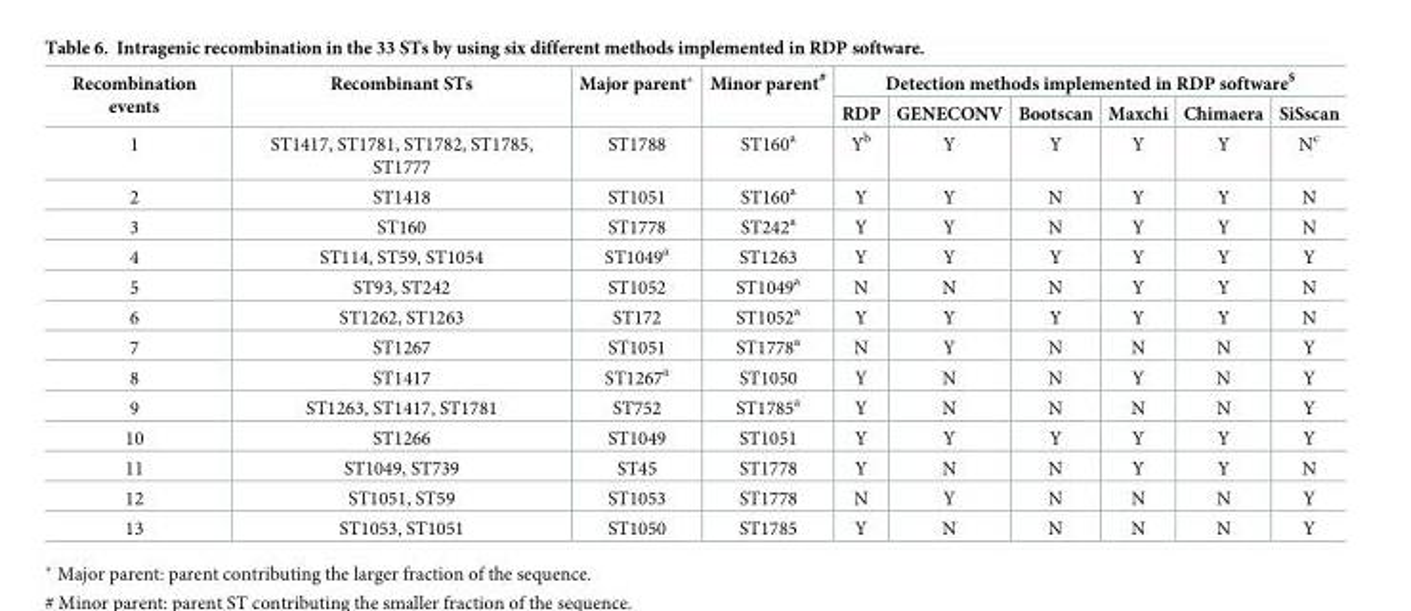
<table><thead><tr><td rowspan="2">Recombination events</td><td rowspan="2">Recombinant STs</td><td rowspan="2">Major parent*</td><td rowspan="2">Minor parent<sup>#</sup></td><td colspan="6">Detection methods implemented in RDP software<sup>$</sup></td></tr><tr><td>RDP</td><td>GENECONV</td><td>Bootscan</td><td>Maxchi</td><td>Chimaera</td><td>SiSscan</td></tr></thead><tbody><tr><td>1</td><td>ST1417, ST1781, ST1782, ST1785, ST1777</td><td>ST1788</td><td>ST160<sup>a</sup></td><td>Y<sup>b</sup></td><td>Y</td><td>Y</td><td>Y</td><td>Y</td><td>N<sup>c</sup></td></tr><tr><td>2</td><td>ST1418</td><td>ST1051</td><td>ST160<sup>a</sup></td><td>Y</td><td>Y</td><td>N</td><td>Y</td><td>Y</td><td>N</td></tr><tr><td>3</td><td>ST160</td><td>ST1778</td><td>ST242<sup>a</sup></td><td>Y</td><td>Y</td><td>N</td><td>Y</td><td>Y</td><td>N</td></tr><tr><td>4</td><td>ST114, ST59, ST1054</td><td>ST1049<sup>a</sup></td><td>ST1263</td><td>Y</td><td>Y</td><td>Y</td><td>Y</td><td>Y</td><td>Y</td></tr><tr><td>5</td><td>ST93, ST242</td><td>ST1052</td><td>ST1049<sup>a</sup></td><td>N</td><td>N</td><td>N</td><td>Y</td><td>Y</td><td>N</td></tr><tr><td>6</td><td>ST1262, ST1263</td><td>ST172</td><td>ST1052<sup>a</sup></td><td>Y</td><td>Y</td><td>Y</td><td>Y</td><td>Y</td><td>N</td></tr><tr><td>7</td><td>ST1267</td><td>ST1051</td><td>ST1778<sup>a</sup></td><td>N</td><td>Y</td><td>N</td><td>N</td><td>N</td><td>Y</td></tr><tr><td>8</td><td>ST1417</td><td>ST1267<sup>a</sup></td><td>ST1050</td><td>Y</td><td>N</td><td>N</td><td>Y</td><td>N</td><td>Y</td></tr><tr><td>9</td><td>ST1263, ST1417, ST1781</td><td>ST752</td><td>ST1785<sup>a</sup></td><td>Y</td><td>N</td><td>N</td><td>N</td><td>N</td><td>Y</td></tr><tr><td>10</td><td>ST1266</td><td>ST1049</td><td>ST1051</td><td>Y</td><td>Y</td><td>Y</td><td>Y</td><td>Y</td><td>Y</td></tr><tr><td>11</td><td>ST1049, ST739</td><td>ST45</td><td>ST1778</td><td>Y</td><td>N</td><td>N</td><td>Y</td><td>Y</td><td>N</td></tr><tr><td>12</td><td>ST1051, ST59</td><td>ST1053</td><td>ST1778</td><td>N</td><td>Y</td><td>N</td><td>N</td><td>N</td><td>Y</td></tr><tr><td>13</td><td>ST1053, ST1051</td><td>ST1050</td><td>ST1785</td><td>Y</td><td>N</td><td>N</td><td>N</td><td>N</td><td>Y</td></tr></tbody></table>